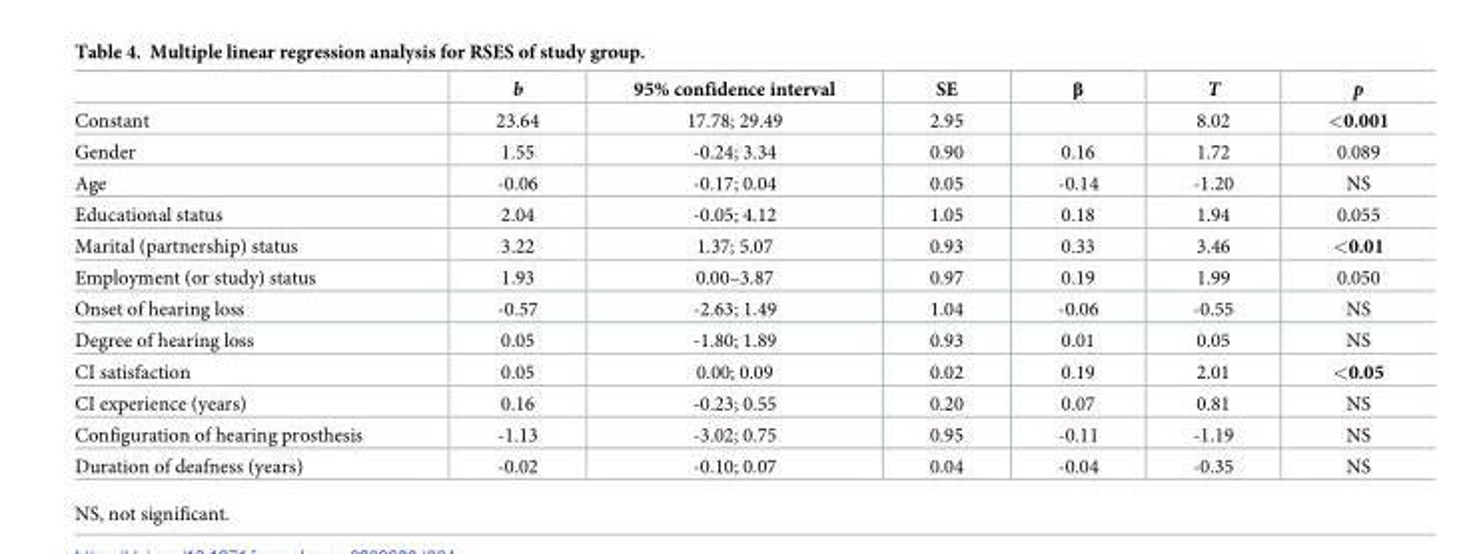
<table><thead><tr><td></td><td>b</td><td>95% confidence interval</td><td>SE</td><td>β</td><td>T</td><td>p</td></tr></thead><tbody><tr><td>Constant</td><td>23.64</td><td>17.78; 29.49</td><td>2.95</td><td></td><td>8.02</td><td>&lt;0.001</td></tr><tr><td>Gender</td><td>1.55</td><td>-0.24; 3.34</td><td>0.90</td><td>0.16</td><td>1.72</td><td>0.089</td></tr><tr><td>Age</td><td>-0.06</td><td>-0.17; 0.04</td><td>0.05</td><td>-0.14</td><td>-1.20</td><td>NS</td></tr><tr><td>Educational status</td><td>2.04</td><td>-0.05; 4.12</td><td>1.05</td><td>0.18</td><td>1.94</td><td>0.055</td></tr><tr><td>Marital (partnership) status</td><td>3.22</td><td>1.37; 5.07</td><td>0.93</td><td>0.33</td><td>3.46</td><td>&lt;0.01</td></tr><tr><td>Employment (or study) status</td><td>1.93</td><td>0.00–3.87</td><td>0.97</td><td>0.19</td><td>1.99</td><td>0.050</td></tr><tr><td>Onset of hearing loss</td><td>-0.57</td><td>-2.63; 1.49</td><td>1.04</td><td>-0.06</td><td>-0.55</td><td>NS</td></tr><tr><td>Degree of hearing loss</td><td>0.05</td><td>-1.80; 1.89</td><td>0.93</td><td>0.01</td><td>0.05</td><td>NS</td></tr><tr><td>CI satisfaction</td><td>0.05</td><td>0.00; 0.09</td><td>0.02</td><td>0.19</td><td>2.01</td><td>&lt;0.05</td></tr><tr><td>CI experience (years)</td><td>0.16</td><td>-0.23; 0.55</td><td>0.20</td><td>0.07</td><td>0.81</td><td>NS</td></tr><tr><td>Configuration of hearing prosthesis</td><td>-1.13</td><td>-3.02; 0.75</td><td>0.95</td><td>-0.11</td><td>-1.19</td><td>NS</td></tr><tr><td>Duration of deafness (years)</td><td>-0.02</td><td>-0.10; 0.07</td><td>0.04</td><td>-0.04</td><td>-0.35</td><td>NS</td></tr></tbody></table>